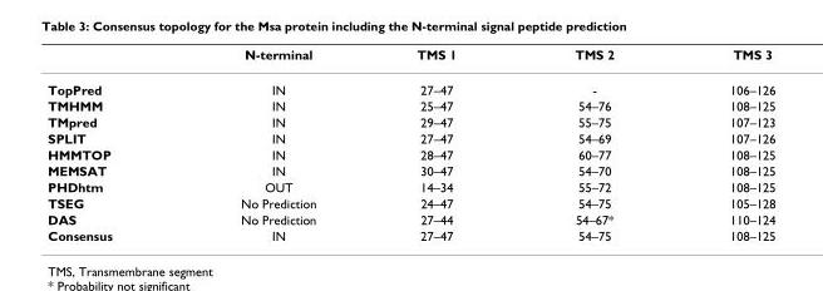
<table><thead><tr><td></td><td>N-terminal</td><td>TMS 1</td><td>TMS 2</td><td>TMS 3</td></tr></thead><tbody><tr><td>TopPred</td><td>IN</td><td>27–47</td><td>-</td><td>106–126</td></tr><tr><td>TMHMM</td><td>IN</td><td>25–47</td><td>54–76</td><td>108–125</td></tr><tr><td>TMpred</td><td>IN</td><td>29–47</td><td>55–75</td><td>107–123</td></tr><tr><td>SPLIT</td><td>IN</td><td>27–47</td><td>54–69</td><td>107–126</td></tr><tr><td>HMMTOP</td><td>IN</td><td>28–47</td><td>60–77</td><td>108–125</td></tr><tr><td>MEMSAT</td><td>IN</td><td>30–47</td><td>54–70</td><td>108–125</td></tr><tr><td>PHDhtm</td><td>OUT</td><td>14–34</td><td>55–72</td><td>108–125</td></tr><tr><td>TSEG</td><td>No Prediction</td><td>24–47</td><td>54–75</td><td>105–128</td></tr><tr><td>DAS</td><td>No Prediction</td><td>27–44</td><td>54–67*</td><td>110–124</td></tr><tr><td>Consensus</td><td>IN</td><td>27–47</td><td>54–75</td><td>108–125</td></tr></tbody></table>